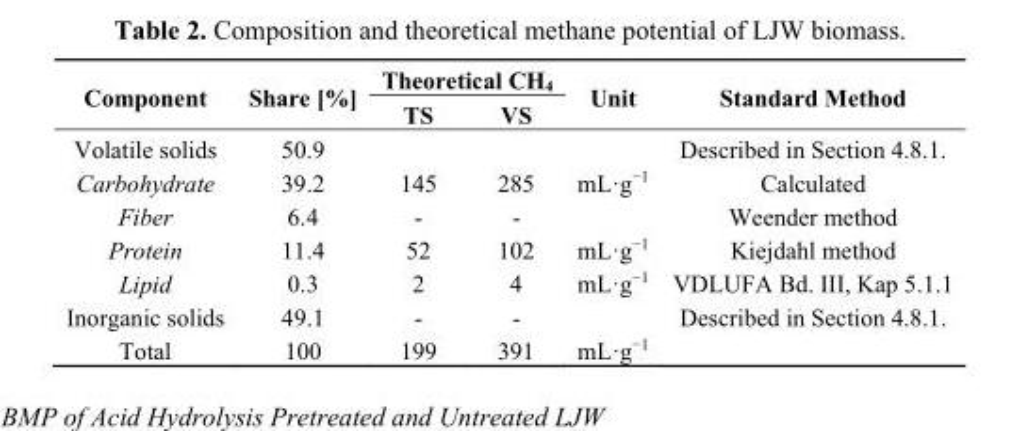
<table><thead><tr><td rowspan="2">Component</td><td rowspan="2">Share [%]</td><td colspan="2">Theoretical CH<sub>4</sub></td><td rowspan="2">Unit</td><td rowspan="2">Standard Method</td></tr><tr><td>TS</td><td>VS</td></tr></thead><tbody><tr><td>Volatile solids</td><td>50.9</td><td></td><td></td><td></td><td>Described in Section 4.8.1.</td></tr><tr><td>Carbohydrate</td><td>39.2</td><td>145</td><td>285</td><td>mL·g<sup>−1</sup></td><td>Calculated</td></tr><tr><td>Fiber</td><td>6.4</td><td>-</td><td>-</td><td></td><td>Weender method</td></tr><tr><td>Protein</td><td>11.4</td><td>52</td><td>102</td><td>mL·g<sup>−1</sup></td><td>Kiejdahl method</td></tr><tr><td>Lipid</td><td>0.3</td><td>2</td><td>4</td><td>mL·g<sup>−1</sup></td><td>VDLUFA Bd. III, Kap 5.1.1</td></tr><tr><td>Inorganic solids</td><td>49.1</td><td>-</td><td>-</td><td></td><td>Described in Section 4.8.1.</td></tr><tr><td>Total</td><td>100</td><td>199</td><td>391</td><td>mL·g<sup>−1</sup></td><td></td></tr></tbody></table>